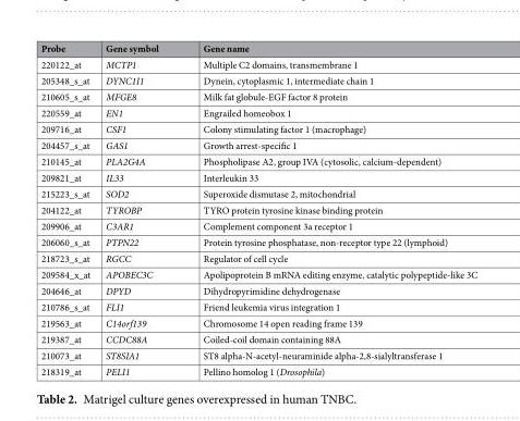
<table><thead><tr><td>Probe</td><td>Gene symbol</td><td>Gene name</td></tr></thead><tbody><tr><td>220122_at</td><td>MCTP1</td><td>Multiple C2 domains, transmembrane 1</td></tr><tr><td>205348_s_at</td><td>DYNC1I1</td><td>Dynein, cytoplasmic 1, intermediate chain 1</td></tr><tr><td>210605_s_at</td><td>MFGE8</td><td>Milk fat globule-EGF factor 8 protein</td></tr><tr><td>220559_at</td><td>EN1</td><td>Engrailed homeobox 1</td></tr><tr><td>209716_at</td><td>CSF1</td><td>Colony stimulating factor 1 (macrophage)</td></tr><tr><td>204457_s_at</td><td>GAS1</td><td>Growth arrest-specific 1</td></tr><tr><td>210145_at</td><td>PLA2G4A</td><td>Phospholipase A2, group IVA (cytosolic, calcium-dependent)</td></tr><tr><td>209821_at</td><td>IL33</td><td>Interleukin 33</td></tr><tr><td>215223_s_at</td><td>SOD2</td><td>Superoxide dismutase 2, mitochondrial</td></tr><tr><td>204122_at</td><td>TYROBP</td><td>TYRO protein tyrosine kinase binding protein</td></tr><tr><td>209906_at</td><td>C3AR1</td><td>Complement component 3a receptor 1</td></tr><tr><td>206060_s_at</td><td>PTPN22</td><td>Protein tyrosine phosphatase, non-receptor type 22 (lymphoid)</td></tr><tr><td>218723_s_at</td><td>RGCC</td><td>Regulator of cell cycle</td></tr><tr><td>209584_x_at</td><td>APOBEC3C</td><td>Apolipoprotein B mRNA editing enzyme, catalytic polypeptide-like 3C</td></tr><tr><td>204646_at</td><td>DPYD</td><td>Dihydropyrimidine dehydrogenase</td></tr><tr><td>210786_s_at</td><td>FLI1</td><td>Friend leukemia virus integration 1</td></tr><tr><td>219563_at</td><td>C14orf139</td><td>Chromosome 14 open reading frame 139</td></tr><tr><td>219387_at</td><td>CCDC88A</td><td>Coiled-coil domain containing 88A</td></tr><tr><td>210073_at</td><td>ST8SIA1</td><td>ST8 alpha-N-acetyl-neuraminide alpha-2,8-sialyltransferase 1</td></tr><tr><td>218319_at</td><td>PELI1</td><td>Pellino homolog 1 (Drosophila)</td></tr></tbody></table>